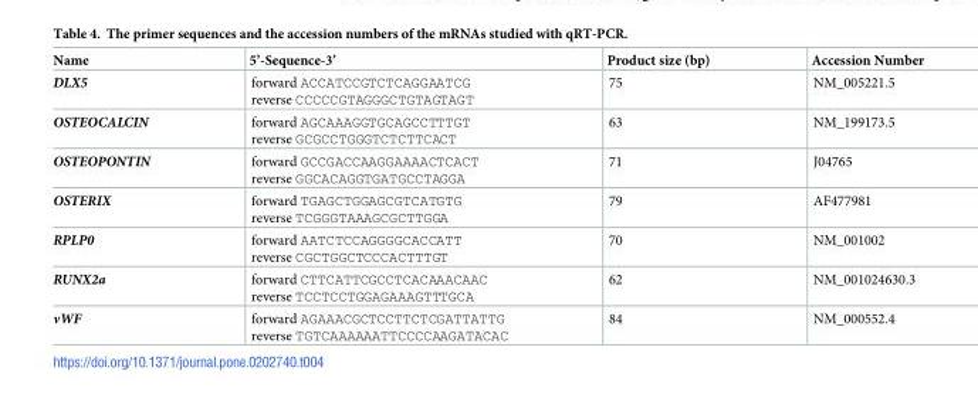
<table><thead><tr><td>Name</td><td>5’-Sequence-3’</td><td>Product size (bp)</td><td>Accession Number</td></tr></thead><tbody><tr><td>DLX5</td><td>forward ACCATCCGTCTCAGGAATCG reverse CCCCCGTAGGGCTGTAGTAGT</td><td>75</td><td>NM_005221.5</td></tr><tr><td>OSTEOCALCIN</td><td>forward AGCAAAGGTGCAGCCTTTGT reverse GCGCCTGGGTCTCTTCACT</td><td>63</td><td>NM_199173.5</td></tr><tr><td>OSTEOPONTIN</td><td>forward GCCGACCAAGGAAAACTCACT reverse GGCACAGGTGATGCCTAGGA</td><td>71</td><td>J04765</td></tr><tr><td>OSTERIX</td><td>forward TGAGCTGGAGCGTCATGTG reverse TCGGGTAAAGCGCTTGGA</td><td>79</td><td>AF477981</td></tr><tr><td>RPLP0</td><td>forward AATCTCCAGGGGCACCATT reverse CGCTGGCTCCCACTTTGT</td><td>70</td><td>NM_001002</td></tr><tr><td>RUNX2a</td><td>forward CTTCATTCGCCTCACAAACAAC reverse TCCTCCTGGAGAAAGTTTGCA</td><td>62</td><td>NM_001024630.3</td></tr><tr><td>vWF</td><td>forward AGAAACGCTCCTTCTCGATTATTG reverse TGTCAAAAAATTCCCCAAGATACAC</td><td>84</td><td>NM_000552.4</td></tr></tbody></table>